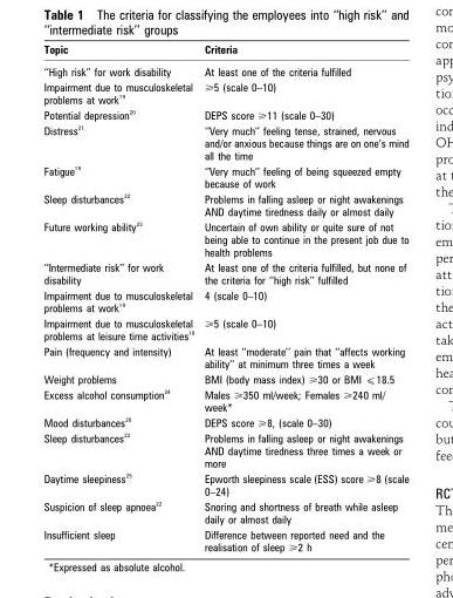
<table><thead><tr><td>Topic</td><td>Criteria</td></tr></thead><tbody><tr><td>‘‘High risk’’ for work disability</td><td>At least one of the criteria fulfilled</td></tr><tr><td>Impairment due to musculoskeletal problems at work <sup>19</sup></td><td>&gt;5 (scale 0–10)</td></tr><tr><td>Potential depression <sup>20</sup></td><td>DEPS score &gt;11 (scale 0–30)</td></tr><tr><td>Distress <sup>21</sup></td><td>‘‘Very much’’ feeling tense, strained, nervous and/or anxious because things are on one’s mind all the time</td></tr><tr><td>Fatigue <sup>19</sup></td><td>‘‘Very much’’ feeling of being squeezed empty because of work</td></tr><tr><td>Sleep disturbances <sup>22</sup></td><td>Problems in falling asleep or night awakenings AND daytime tiredness daily or almost daily</td></tr><tr><td>Future working ability <sup>23</sup></td><td>Uncertain of own ability or quite sure of not being able to continue in the present job due to health problems</td></tr><tr><td>‘‘Intermediate risk’’ for work disability</td><td>At least one of the criteria fulfilled, but none of the criteria for ‘‘high risk’’ fulfilled</td></tr><tr><td>Impairment due to musculoskeletal problems at work <sup>19</sup></td><td>4 (scale 0–10)</td></tr><tr><td>Impairment due to musculoskeletal problems at leisure time activities <sup>19</sup></td><td>&gt;5 (scale 0–10)</td></tr><tr><td>Pain (frequency and intensity)</td><td>At least ‘‘moderate’’ pain that ‘‘affects working ability’’ at minimum three times a week</td></tr><tr><td>Weight problems</td><td>BMI (body mass index) &gt;30 or BMI (18.5</td></tr><tr><td>Excess alcohol consumption <sup>24</sup></td><td>Males &gt;350 ml/week; Females &gt;240 ml/ week*</td></tr><tr><td>Mood disturbances <sup>20</sup></td><td>DEPS score &gt;8, (scale 0–30)</td></tr><tr><td>Sleep disturbances <sup>22</sup></td><td>Problems in falling asleep or night awakenings AND daytime tiredness three times a week or more</td></tr><tr><td>Daytime sleepiness <sup>25</sup></td><td>Epworth sleepiness scale (ESS) score &gt;8 (scale 0–24)</td></tr><tr><td>Suspicion of sleep apnoea <sup>22</sup></td><td>Snoring and shortness of breath while asleep daily or almost daily</td></tr><tr><td>Insufficient sleep</td><td>Difference between reported need and the realisation of sleep &gt;2 h</td></tr></tbody></table>